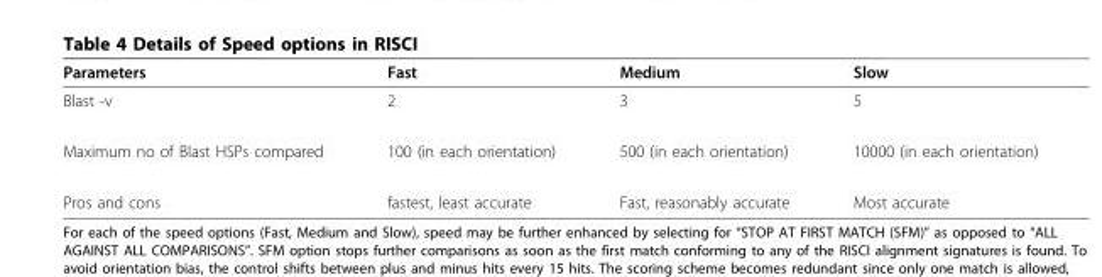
<table><thead><tr><td>Parameters</td><td>Fast</td><td>Medium</td><td>Slow</td></tr></thead><tbody><tr><td>Blast -v</td><td>2</td><td>3</td><td>5</td></tr><tr><td>Maximum no of Blast HSPs compared</td><td>100 (in each orientation)</td><td>500 (in each orientation)</td><td>10000 (in each orientation)</td></tr><tr><td>Pros and cons</td><td>fastest, least accurate</td><td>Fast, reasonably accurate</td><td>Most accurate</td></tr></tbody></table>